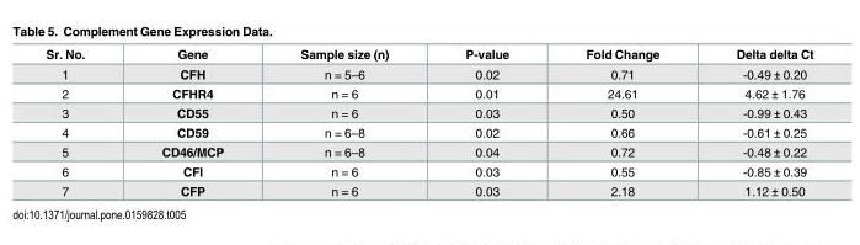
<table><thead><tr><td>Sr. No.</td><td>Gene</td><td>Sample size (n)</td><td>P-value</td><td>Fold Change</td><td>Delta delta Ct</td></tr></thead><tbody><tr><td>1</td><td>CFH</td><td>n = 5–6</td><td>0.02</td><td>0.71</td><td>-0.49 ± 0.20</td></tr><tr><td>2</td><td>CFHR4</td><td>n = 6</td><td>0.01</td><td>24.61</td><td>4.62 ± 1.76</td></tr><tr><td>3</td><td>CD55</td><td>n = 6</td><td>0.03</td><td>0.50</td><td>-0.99 ± 0.43</td></tr><tr><td>4</td><td>CD59</td><td>n = 6–8</td><td>0.02</td><td>0.66</td><td>-0.61 ± 0.25</td></tr><tr><td>5</td><td>CD46/MCP</td><td>n = 6–8</td><td>0.04</td><td>0.72</td><td>-0.48 ± 0.22</td></tr><tr><td>6</td><td>CFI</td><td>n = 6</td><td>0.03</td><td>0.55</td><td>-0.85 ± 0.39</td></tr><tr><td>7</td><td>CFP</td><td>n = 6</td><td>0.03</td><td>2.18</td><td>1.12 ± 0.50</td></tr></tbody></table>